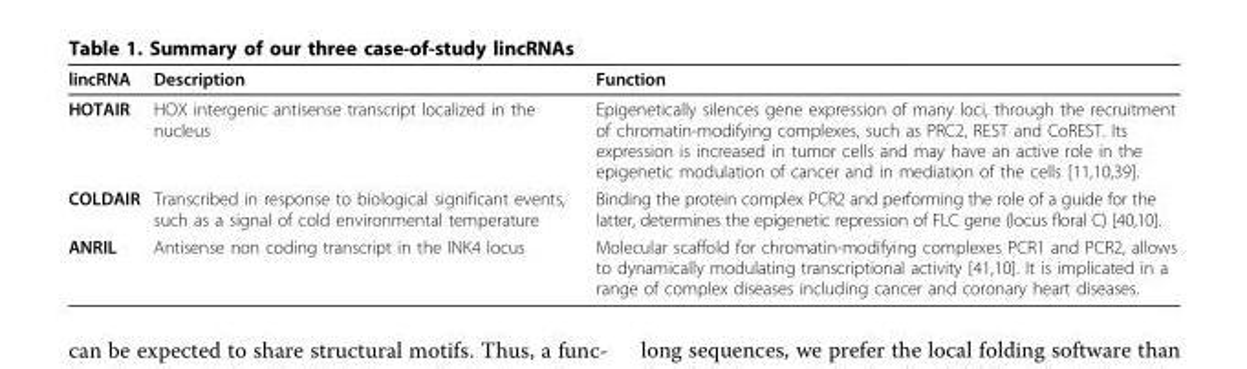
<table><thead><tr><td>lincRNA</td><td>Description</td><td>Function</td></tr></thead><tbody><tr><td>HOTAIR</td><td>HOX intergenic antisense transcript localized in the nucleus</td><td>Epigenetically silences gene expression of many loci, through the recruitment of chromatin-modifying complexes, such as PRC2, REST and CoREST. Its expression is increased in tumor cells and may have an active role in the epigenetic modulation of cancer and in mediation of the cells [11,10,39].</td></tr><tr><td>COLDAIR</td><td>Transcribed in response to biological significant events, such as a signal of cold environmental temperature</td><td>Binding the protein complex PCR2 and performing the role of a guide for the latter, determines the epigenetic repression of FLC gene (locus floral C) [40,10].</td></tr><tr><td>ANRIL</td><td>Antisense non coding transcript in the INK4 locus</td><td>Molecular scaffold for chromatin-modifying complexes PCR1 and PCR2, allows to dynamically modulating transcriptional activity [41,10]. It is implicated in a range of complex diseases including cancer and coronary heart diseases.</td></tr></tbody></table>